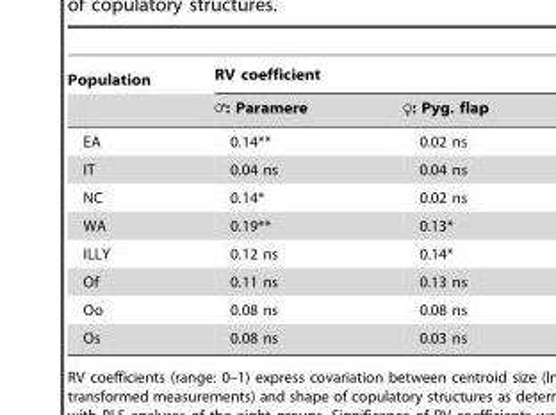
<table><thead><tr><td rowspan="2">Population</td><td colspan="2">RV coefficient</td></tr><tr><td>=: Paramere</td><td>♀: Pyg. flap</td></tr></thead><tbody><tr><td>EA</td><td>0.14**</td><td>0.02 ns</td></tr><tr><td>IT</td><td>0.04 ns</td><td>0.04 ns</td></tr><tr><td>NC</td><td>0.14*</td><td>0.02 ns</td></tr><tr><td>WA</td><td>0.19**</td><td>0.13*</td></tr><tr><td>ILLY</td><td>0.12 ns</td><td>0.14*</td></tr><tr><td>Of</td><td>0.11 ns</td><td>0.13 ns</td></tr><tr><td>Oo</td><td>0.08 ns</td><td>0.08 ns</td></tr><tr><td>Os</td><td>0.08 ns</td><td>0.03 ns</td></tr></tbody></table>